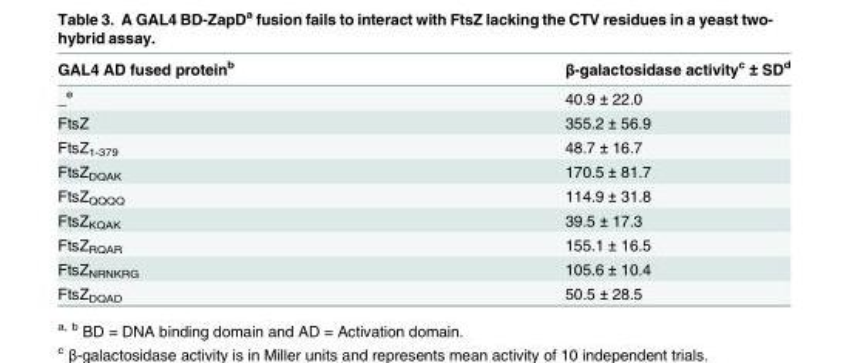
<table><thead><tr><td>GAL4 AD fused protein<sup>b</sup></td><td>β-galactosidase activity<sup>c</sup> ± SD<sup>d</sup></td></tr></thead><tbody><tr><td>_<sup>e</sup></td><td>40.9 ± 22.0</td></tr><tr><td>FtsZ</td><td>355.2 ± 56.9</td></tr><tr><td>FtsZ<sub>1-379</sub></td><td>48.7 ± 16.7</td></tr><tr><td>FtsZ<sub>DQAK</sub></td><td>170.5 ± 81.7</td></tr><tr><td>FtsZ<sub>QQQQ</sub></td><td>114.9 ± 31.8</td></tr><tr><td>FtsZ<sub>KQAK</sub></td><td>39.5 ± 17.3</td></tr><tr><td>FtsZ<sub>RQAR</sub></td><td>155.1 ± 16.5</td></tr><tr><td>FtsZ<sub>NRNKRG</sub></td><td>105.6 ± 10.4</td></tr><tr><td>FtsZ<sub>DQAD</sub></td><td>50.5 ± 28.5</td></tr></tbody></table>